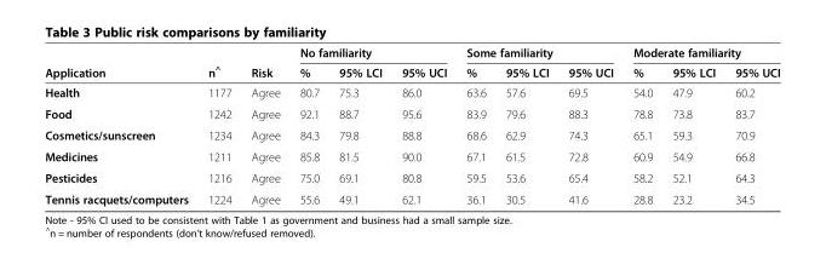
<table><thead><tr><td rowspan="2">Application</td><td rowspan="2">n<sup>^</sup></td><td rowspan="2">Risk</td><td colspan="3">No familiarity</td><td colspan="3">Some familiarity</td><td colspan="3">Moderate familiarity</td></tr><tr><td>%</td><td>95% LCI</td><td>95% UCI</td><td>%</td><td>95% LCI</td><td>95% UCI</td><td>%</td><td>95% LCI</td><td>95% UCI</td></tr></thead><tbody><tr><td>Health</td><td>1177</td><td>Agree</td><td>80.7</td><td>75.3</td><td>86.0</td><td>63.6</td><td>57.6</td><td>69.5</td><td>54.0</td><td>47.9</td><td>60.2</td></tr><tr><td>Food</td><td>1242</td><td>Agree</td><td>92.1</td><td>88.7</td><td>95.6</td><td>83.9</td><td>79.6</td><td>88.3</td><td>78.8</td><td>73.8</td><td>83.7</td></tr><tr><td>Cosmetics/sunscreen</td><td>1234</td><td>Agree</td><td>84.3</td><td>79.8</td><td>88.8</td><td>68.6</td><td>62.9</td><td>74.3</td><td>65.1</td><td>59.3</td><td>70.9</td></tr><tr><td>Medicines</td><td>1211</td><td>Agree</td><td>85.8</td><td>81.5</td><td>90.0</td><td>67.1</td><td>61.5</td><td>72.8</td><td>60.9</td><td>54.9</td><td>66.8</td></tr><tr><td>Pesticides</td><td>1216</td><td>Agree</td><td>75.0</td><td>69.1</td><td>80.8</td><td>59.5</td><td>53.6</td><td>65.4</td><td>58.2</td><td>52.1</td><td>64.3</td></tr><tr><td>Tennis racquets/computers</td><td>1224</td><td>Agree</td><td>55.6</td><td>49.1</td><td>62.1</td><td>36.1</td><td>30.5</td><td>41.6</td><td>28.8</td><td>23.2</td><td>34.5</td></tr></tbody></table>